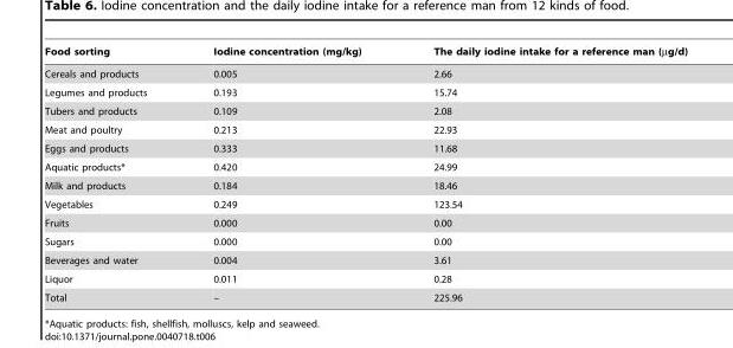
<table><thead><tr><td>Food sorting</td><td>Iodine concentration (mg/kg)</td><td>The daily iodine intake for a reference man (µg/d)</td></tr></thead><tbody><tr><td>Cereals and products</td><td>0.005</td><td>2.66</td></tr><tr><td>Legumes and products</td><td>0.193</td><td>15.74</td></tr><tr><td>Tubers and products</td><td>0.109</td><td>2.08</td></tr><tr><td>Meat and poultry</td><td>0.213</td><td>22.93</td></tr><tr><td>Eggs and products</td><td>0.333</td><td>11.68</td></tr><tr><td>Aquatic products*</td><td>0.420</td><td>24.99</td></tr><tr><td>Milk and products</td><td>0.184</td><td>18.46</td></tr><tr><td>Vegetables</td><td>0.249</td><td>123.54</td></tr><tr><td>Fruits</td><td>0.000</td><td>0.00</td></tr><tr><td>Sugars</td><td>0.000</td><td>0.00</td></tr><tr><td>Beverages and water</td><td>0.004</td><td>3.61</td></tr><tr><td>Liquor</td><td>0.011</td><td>0.28</td></tr><tr><td>Total</td><td>–</td><td>225.96</td></tr></tbody></table>